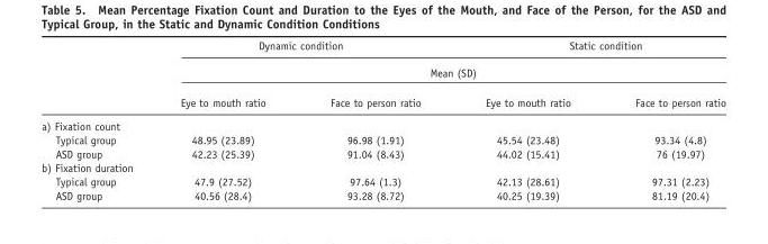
<table><thead><tr><td rowspan="3"></td><td colspan="2">Dynamic condition</td><td colspan="2">Static condition</td></tr><tr><td colspan="4">Mean (SD)</td></tr><tr><td>Eye to mouth ratio</td><td>Face to person ratio</td><td>Eye to mouth ratio</td><td>Face to person ratio</td></tr></thead><tbody><tr><td colspan="5">a) Fixation count</td></tr><tr><td>Typical group</td><td>48.95 (23.89)</td><td>96.98 (1.91)</td><td>45.54 (23.48)</td><td>93.34 (4.8)</td></tr><tr><td>ASD group</td><td>42.23 (25.39)</td><td>91.04 (8.43)</td><td>44.02 (15.41)</td><td>76 (19.97)</td></tr><tr><td colspan="5">b) Fixation duration</td></tr><tr><td>Typical group</td><td>47.9 (27.52)</td><td>97.64 (1.3)</td><td>42.13 (28.61)</td><td>97.31 (2.23)</td></tr><tr><td>ASD group</td><td>40.56 (28.4)</td><td>93.28 (8.72)</td><td>40.25 (19.39)</td><td>81.19 (20.4)</td></tr></tbody></table>